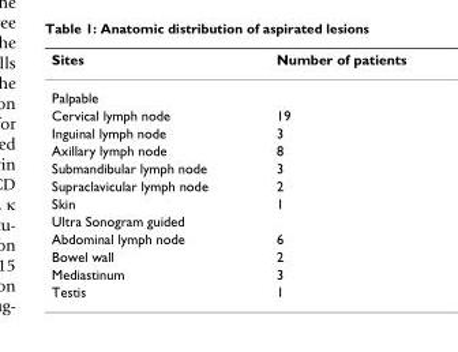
<table><thead><tr><td>Sites</td><td>Number of patients</td></tr></thead><tbody><tr><td colspan="2">Palpable</td></tr><tr><td>Cervical lymph node</td><td>19</td></tr><tr><td>Inguinal lymph node</td><td>3</td></tr><tr><td>Axillary lymph node</td><td>8</td></tr><tr><td>Submandibular lymph node</td><td>3</td></tr><tr><td>Supraclavicular lymph node</td><td>2</td></tr><tr><td>Skin</td><td>1</td></tr><tr><td colspan="2">Ultra Sonogram guided</td></tr><tr><td>Abdominal lymph node</td><td>6</td></tr><tr><td>Bowel wall</td><td>2</td></tr><tr><td>Mediastinum</td><td>3</td></tr><tr><td>Testis</td><td>1</td></tr></tbody></table>